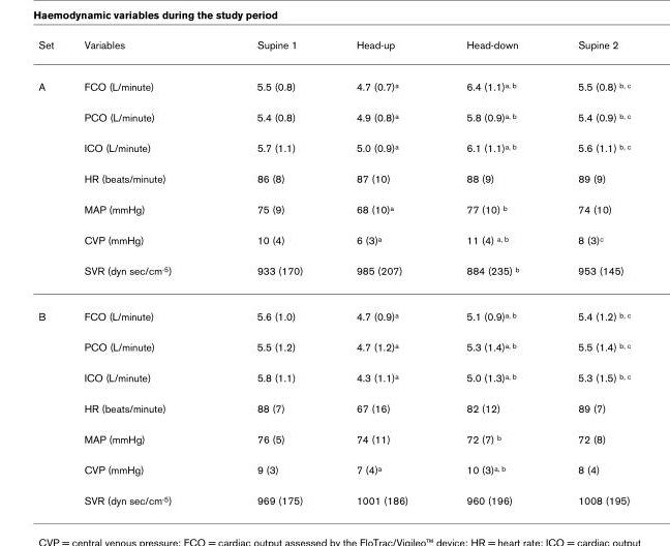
<table><thead><tr><td>Set</td><td>Variables</td><td>Supine 1</td><td>Head-up</td><td>Head-down</td><td>Supine 2</td></tr></thead><tbody><tr><td rowspan="7">A</td><td>FCO (L/minute)</td><td>5.5 (0.8)</td><td>4.7 (0.7)<sup>a</sup></td><td>6.4 (1.1)<sup>a, b</sup></td><td>5.5 (0.8) <sup>b, c</sup></td></tr><tr><td>PCO (L/minute)</td><td>5.4 (0.8)</td><td>4.9 (0.8)<sup>a</sup></td><td>5.8 (0.9)<sup>a, b</sup></td><td>5.4 (0.9) <sup>b, c</sup></td></tr><tr><td>ICO (L/minute)</td><td>5.7 (1.1)</td><td>5.0 (0.9)<sup>a</sup></td><td>6.1 (1.1)<sup>a, b</sup></td><td>5.6 (1.1) <sup>b, c</sup></td></tr><tr><td>HR (beats/minute)</td><td>86 (8)</td><td>87 (10)</td><td>88 (9)</td><td>89 (9)</td></tr><tr><td>MAP (mmHg)</td><td>75 (9)</td><td>68 (10)<sup>a</sup></td><td>77 (10) <sup>b</sup></td><td>74 (10)</td></tr><tr><td>CVP (mmHg)</td><td>10 (4)</td><td>6 (3)<sup>a</sup></td><td>11 (4) <sup>a, b</sup></td><td>8 (3)<sup>c</sup></td></tr><tr><td>SVR (dyn sec/cm<sup>-5</sup>)</td><td>933 (170)</td><td>985 (207)</td><td>884 (235) <sup>b</sup></td><td>953 (145)</td></tr><tr><td rowspan="7">B</td><td>FCO (L/minute)</td><td>5.6 (1.0)</td><td>4.7 (0.9)<sup>a</sup></td><td>5.1 (0.9)<sup>a, b</sup></td><td>5.4 (1.2) <sup>b, c</sup></td></tr><tr><td>PCO (L/minute)</td><td>5.5 (1.2)</td><td>4.7 (1.2)<sup>a</sup></td><td>5.3 (1.4)<sup>a, b</sup></td><td>5.5 (1.4) <sup>b, c</sup></td></tr><tr><td>ICO (L/minute)</td><td>5.8 (1.1)</td><td>4.3 (1.1)<sup>a</sup></td><td>5.0 (1.3)<sup>a, b</sup></td><td>5.3 (1.5) <sup>b, c</sup></td></tr><tr><td>HR (beats/minute)</td><td>88 (7)</td><td>67 (16)</td><td>82 (12)</td><td>89 (7)</td></tr><tr><td>MAP (mmHg)</td><td>76 (5)</td><td>74 (11)</td><td>72 (7) <sup>b</sup></td><td>72 (8)</td></tr><tr><td>CVP (mmHg)</td><td>9 (3)</td><td>7 (4)<sup>a</sup></td><td>10 (3)<sup>a, b</sup></td><td>8 (4)</td></tr><tr><td>SVR (dyn sec/cm<sup>-5</sup>)</td><td>969 (175)</td><td>1001 (186)</td><td>960 (196)</td><td>1008 (195)</td></tr></tbody></table>